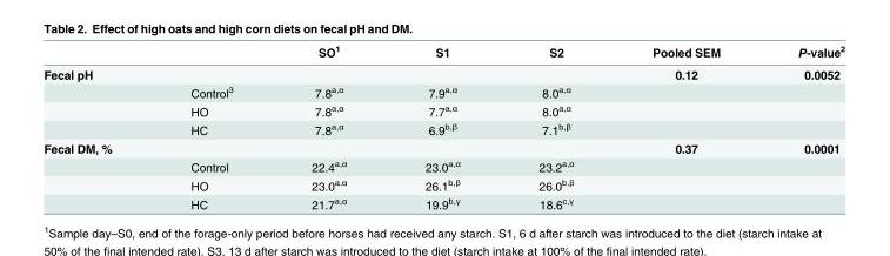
<table><thead><tr><td></td><td></td><td>SO<sup>1</sup></td><td>S1</td><td>S2</td><td>Pooled SEM</td><td>P-value<sup>2</sup></td></tr></thead><tbody><tr><td rowspan="4">Fecal pH</td><td></td><td></td><td></td><td></td><td>0.12</td><td>0.0052</td></tr><tr><td>Control<sup>3</sup></td><td>7.8<sup>a,α</sup></td><td>7.9<sup>a,α</sup></td><td>8.0<sup>a,α</sup></td><td></td><td></td></tr><tr><td>HO</td><td>7.8<sup>a,α</sup></td><td>7.7<sup>a,α</sup></td><td>8.0<sup>a,α</sup></td><td></td><td></td></tr><tr><td>HC</td><td>7.8<sup>a,α</sup></td><td>6.9<sup>b,β</sup></td><td>7.1<sup>b,β</sup></td><td></td><td></td></tr><tr><td rowspan="4">Fecal DM, %</td><td></td><td></td><td></td><td></td><td>0.37</td><td>0.0001</td></tr><tr><td>Control</td><td>22.4<sup>a,α</sup></td><td>23.0<sup>a,α</sup></td><td>23.2<sup>a,α</sup></td><td></td><td></td></tr><tr><td>HO</td><td>23.0<sup>a,α</sup></td><td>26.1<sup>b,β</sup></td><td>26.0<sup>b,β</sup></td><td></td><td></td></tr><tr><td>HC</td><td>21.7<sup>a,α</sup></td><td>19.9<sup>b,γ</sup></td><td>18.6<sup>c,γ</sup></td><td></td><td></td></tr></tbody></table>